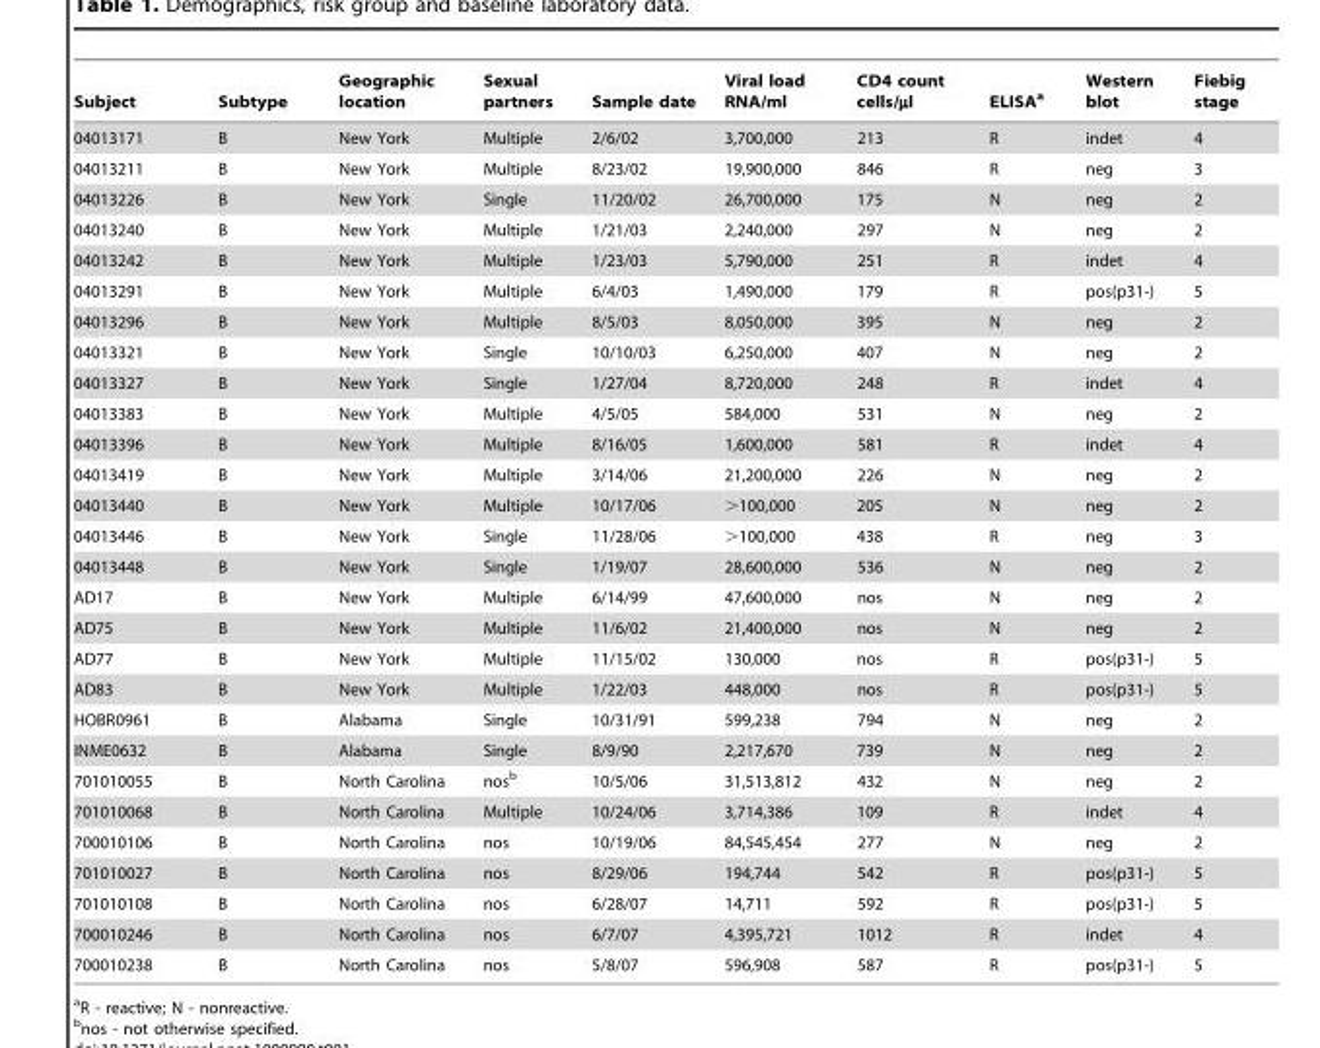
<table><thead><tr><td>Subject</td><td>Subtype</td><td>Geographic location</td><td>Sexual partners</td><td>Sample date</td><td>Viral load RNA/ml</td><td>CD4 count cells/µl</td><td>ELISA<sup>a</sup></td><td>Western blot</td><td>Fiebig stage</td></tr></thead><tbody><tr><td>04013171</td><td>B</td><td>New York</td><td>Multiple</td><td>2/6/02</td><td>3,700,000</td><td>213</td><td>R</td><td>indet</td><td>4</td></tr><tr><td>04013211</td><td>B</td><td>New York</td><td>Multiple</td><td>8/23/02</td><td>19,900,000</td><td>846</td><td>R</td><td>neg</td><td>3</td></tr><tr><td>04013226</td><td>B</td><td>New York</td><td>Single</td><td>11/20/02</td><td>26,700,000</td><td>175</td><td>N</td><td>neg</td><td>2</td></tr><tr><td>04013240</td><td>B</td><td>New York</td><td>Multiple</td><td>1/21/03</td><td>2,240,000</td><td>297</td><td>N</td><td>neg</td><td>2</td></tr><tr><td>04013242</td><td>B</td><td>New York</td><td>Multiple</td><td>1/23/03</td><td>5,790,000</td><td>251</td><td>R</td><td>indet</td><td>4</td></tr><tr><td>04013291</td><td>B</td><td>New York</td><td>Multiple</td><td>6/4/03</td><td>1,490,000</td><td>179</td><td>R</td><td>pos(p31-)</td><td>5</td></tr><tr><td>04013296</td><td>B</td><td>New York</td><td>Multiple</td><td>8/5/03</td><td>8,050,000</td><td>395</td><td>N</td><td>neg</td><td>2</td></tr><tr><td>04013321</td><td>B</td><td>New York</td><td>Single</td><td>10/10/03</td><td>6,250,000</td><td>407</td><td>N</td><td>neg</td><td>2</td></tr><tr><td>04013327</td><td>B</td><td>New York</td><td>Single</td><td>1/27/04</td><td>8,720,000</td><td>248</td><td>R</td><td>indet</td><td>4</td></tr><tr><td>04013383</td><td>B</td><td>New York</td><td>Multiple</td><td>4/5/05</td><td>584,000</td><td>531</td><td>N</td><td>neg</td><td>2</td></tr><tr><td>04013396</td><td>B</td><td>New York</td><td>Multiple</td><td>8/16/05</td><td>1,600,000</td><td>581</td><td>R</td><td>indet</td><td>4</td></tr><tr><td>04013419</td><td>B</td><td>New York</td><td>Multiple</td><td>3/14/06</td><td>21,200,000</td><td>226</td><td>N</td><td>neg</td><td>2</td></tr><tr><td>04013440</td><td>B</td><td>New York</td><td>Multiple</td><td>10/17/06</td><td>&gt;100,000</td><td>205</td><td>N</td><td>neg</td><td>2</td></tr><tr><td>04013446</td><td>B</td><td>New York</td><td>Single</td><td>11/28/06</td><td>&gt;100,000</td><td>438</td><td>R</td><td>neg</td><td>3</td></tr><tr><td>04013448</td><td>B</td><td>New York</td><td>Single</td><td>1/19/07</td><td>28,600,000</td><td>536</td><td>N</td><td>neg</td><td>2</td></tr><tr><td>AD17</td><td>B</td><td>New York</td><td>Multiple</td><td>6/14/99</td><td>47,600,000</td><td>nos</td><td>N</td><td>neg</td><td>2</td></tr><tr><td>AD75</td><td>B</td><td>New York</td><td>Multiple</td><td>11/6/02</td><td>21,400,000</td><td>nos</td><td>N</td><td>neg</td><td>2</td></tr><tr><td>AD77</td><td>B</td><td>New York</td><td>Multiple</td><td>11/15/02</td><td>130,000</td><td>nos</td><td>R</td><td>pos(p31-)</td><td>5</td></tr><tr><td>AD83</td><td>B</td><td>New York</td><td>Multiple</td><td>1/22/03</td><td>448,000</td><td>nos</td><td>R</td><td>pos(p31-)</td><td>5</td></tr><tr><td>HOBR0961</td><td>B</td><td>Alabama</td><td>Single</td><td>10/31/91</td><td>599,238</td><td>794</td><td>N</td><td>neg</td><td>2</td></tr><tr><td>INME0632</td><td>B</td><td>Alabama</td><td>Single</td><td>8/9/90</td><td>2,217,670</td><td>739</td><td>N</td><td>neg</td><td>2</td></tr><tr><td>701010055</td><td>B</td><td>North Carolina</td><td>nos<sup>b</sup></td><td>10/5/06</td><td>31,513,812</td><td>432</td><td>N</td><td>neg</td><td>2</td></tr><tr><td>701010068</td><td>B</td><td>North Carolina</td><td>Multiple</td><td>10/24/06</td><td>3,714,386</td><td>109</td><td>R</td><td>indet</td><td>4</td></tr><tr><td>700010106</td><td>B</td><td>North Carolina</td><td>nos</td><td>10/19/06</td><td>84,545,454</td><td>277</td><td>N</td><td>neg</td><td>2</td></tr><tr><td>701010027</td><td>B</td><td>North Carolina</td><td>nos</td><td>8/29/06</td><td>194,744</td><td>542</td><td>R</td><td>pos(p31-)</td><td>5</td></tr><tr><td>701010108</td><td>B</td><td>North Carolina</td><td>nos</td><td>6/28/07</td><td>14,711</td><td>592</td><td>R</td><td>pos(p31-)</td><td>5</td></tr><tr><td>700010246</td><td>B</td><td>North Carolina</td><td>nos</td><td>6/7/07</td><td>4,395,721</td><td>1012</td><td>R</td><td>indet</td><td>4</td></tr><tr><td>700010238</td><td>B</td><td>North Carolina</td><td>nos</td><td>5/8/07</td><td>596,908</td><td>587</td><td>R</td><td>pos(p31-)</td><td>5</td></tr></tbody></table>